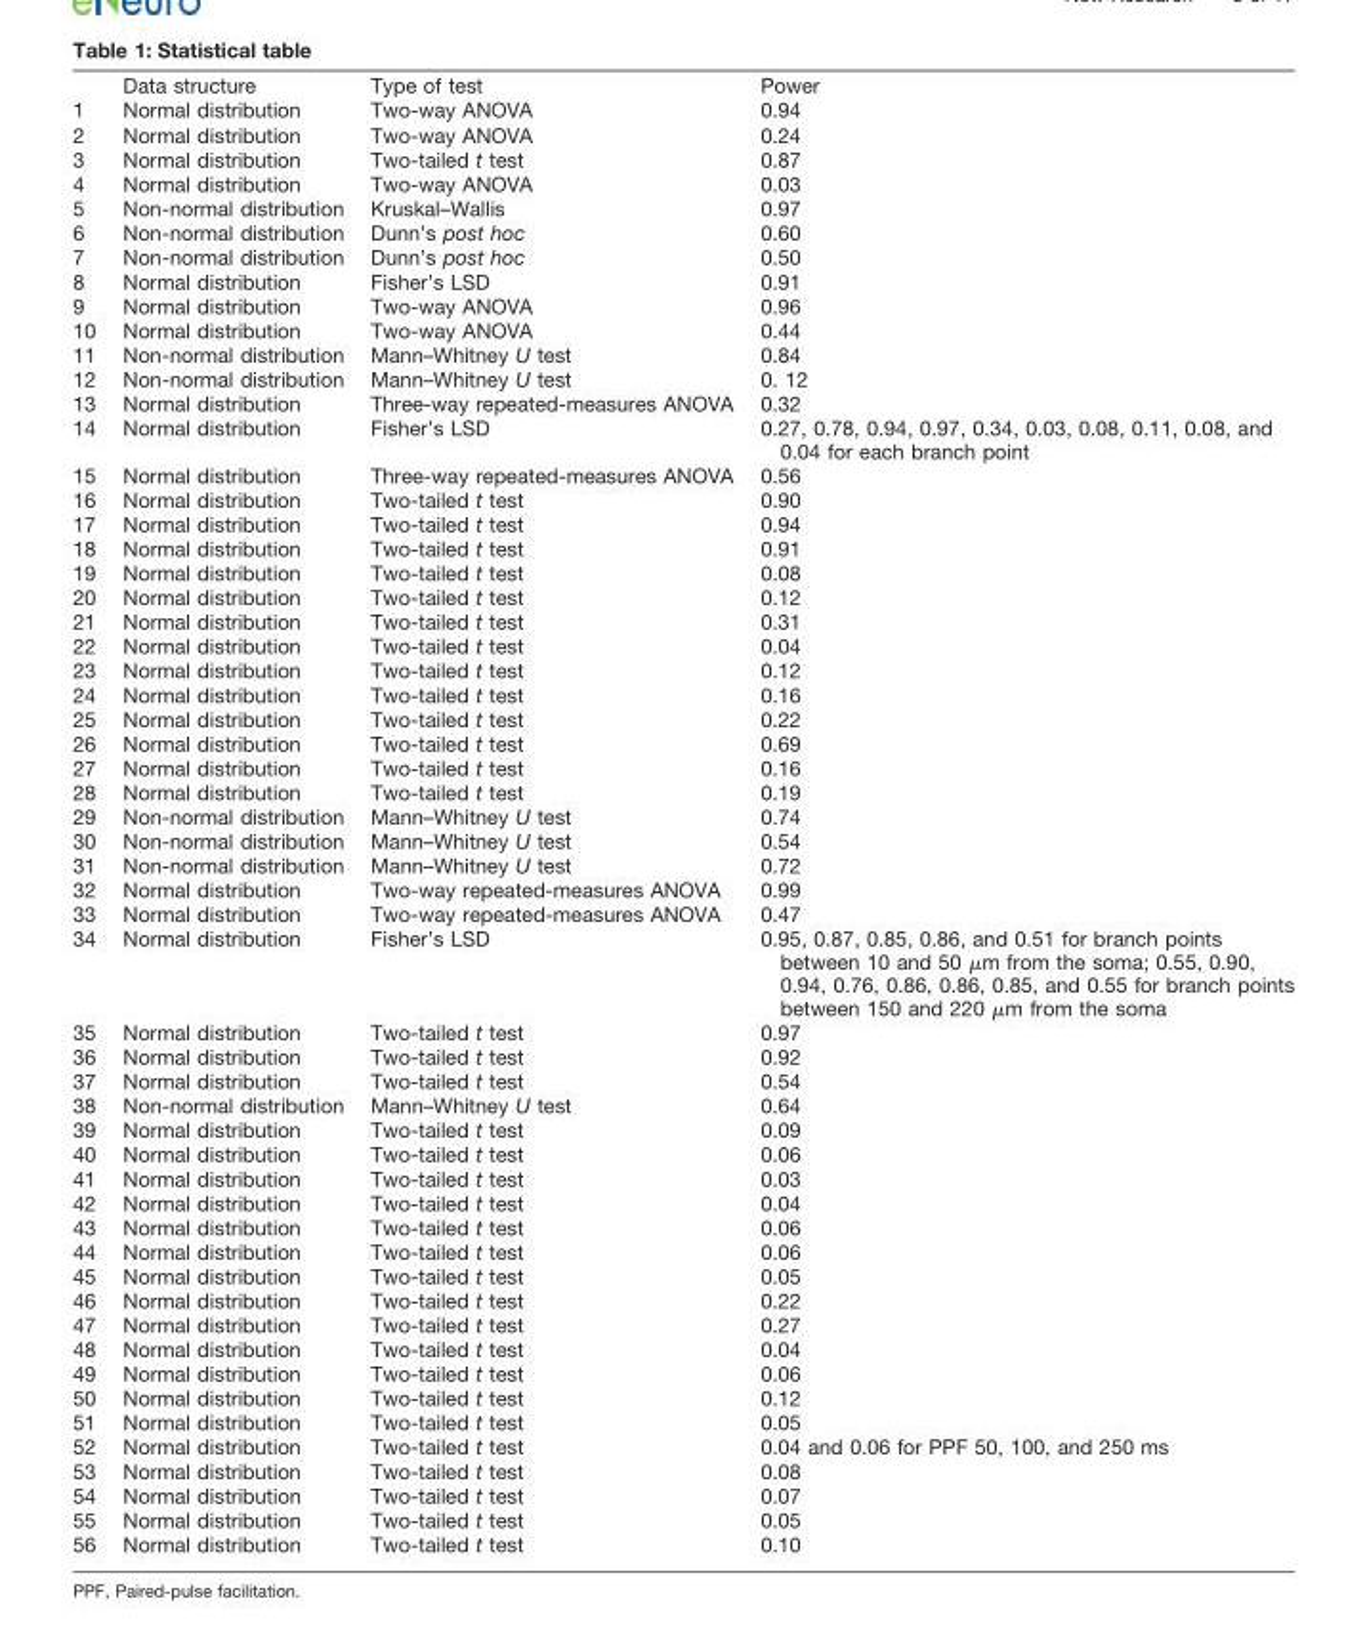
<table><thead><tr><td></td><td>Data structure</td><td>Type of test</td><td>Power</td></tr></thead><tbody><tr><td>1</td><td>Normal distribution</td><td>Two-way ANOVA</td><td>0.94</td></tr><tr><td>2</td><td>Normal distribution</td><td>Two-way ANOVA</td><td>0.24</td></tr><tr><td>3</td><td>Normal distribution</td><td>Two-tailed t test</td><td>0.87</td></tr><tr><td>4</td><td>Normal distribution</td><td>Two-way ANOVA</td><td>0.03</td></tr><tr><td>5</td><td>Non-normal distribution</td><td>Kruskal–Wallis</td><td>0.97</td></tr><tr><td>6</td><td>Non-normal distribution</td><td>Dunn’s post hoc</td><td>0.60</td></tr><tr><td>7</td><td>Non-normal distribution</td><td>Dunn’s post hoc</td><td>0.50</td></tr><tr><td>8</td><td>Normal distribution</td><td>Fisher’s LSD</td><td>0.91</td></tr><tr><td>9</td><td>Normal distribution</td><td>Two-way ANOVA</td><td>0.96</td></tr><tr><td>10</td><td>Normal distribution</td><td>Two-way ANOVA</td><td>0.44</td></tr><tr><td>11</td><td>Non-normal distribution</td><td>Mann–Whitney U test</td><td>0.84</td></tr><tr><td>12</td><td>Non-normal distribution</td><td>Mann–Whitney U test</td><td>0. 12</td></tr><tr><td>13</td><td>Normal distribution</td><td>Three-way repeated-measures ANOVA</td><td>0.32</td></tr><tr><td>14</td><td>Normal distribution</td><td>Fisher’s LSD</td><td>0.27, 0.78, 0.94, 0.97, 0.34, 0.03, 0.08, 0.11, 0.08, and 0.04 for each branch point</td></tr><tr><td>15</td><td>Normal distribution</td><td>Three-way repeated-measures ANOVA</td><td>0.56</td></tr><tr><td>16</td><td>Normal distribution</td><td>Two-tailed t test</td><td>0.90</td></tr><tr><td>17</td><td>Normal distribution</td><td>Two-tailed t test</td><td>0.94</td></tr><tr><td>18</td><td>Normal distribution</td><td>Two-tailed t test</td><td>0.91</td></tr><tr><td>19</td><td>Normal distribution</td><td>Two-tailed t test</td><td>0.08</td></tr><tr><td>20</td><td>Normal distribution</td><td>Two-tailed t test</td><td>0.12</td></tr><tr><td>21</td><td>Normal distribution</td><td>Two-tailed t test</td><td>0.31</td></tr><tr><td>22</td><td>Normal distribution</td><td>Two-tailed t test</td><td>0.04</td></tr><tr><td>23</td><td>Normal distribution</td><td>Two-tailed t test</td><td>0.12</td></tr><tr><td>24</td><td>Normal distribution</td><td>Two-tailed t test</td><td>0.16</td></tr><tr><td>25</td><td>Normal distribution</td><td>Two-tailed t test</td><td>0.22</td></tr><tr><td>26</td><td>Normal distribution</td><td>Two-tailed t test</td><td>0.69</td></tr><tr><td>27</td><td>Normal distribution</td><td>Two-tailed t test</td><td>0.16</td></tr><tr><td>28</td><td>Normal distribution</td><td>Two-tailed t test</td><td>0.19</td></tr><tr><td>29</td><td>Non-normal distribution</td><td>Mann–Whitney U test</td><td>0.74</td></tr><tr><td>30</td><td>Non-normal distribution</td><td>Mann–Whitney U test</td><td>0.54</td></tr><tr><td>31</td><td>Non-normal distribution</td><td>Mann–Whitney U test</td><td>0.72</td></tr><tr><td>32</td><td>Normal distribution</td><td>Two-way repeated-measures ANOVA</td><td>0.99</td></tr><tr><td>33</td><td>Normal distribution</td><td>Two-way repeated-measures ANOVA</td><td>0.47</td></tr><tr><td>34</td><td>Normal distribution</td><td>Fisher’s LSD</td><td>0.95, 0.87, 0.85, 0.86, and 0.51 for branch points between 10 and 50 μm from the soma; 0.55, 0.90, 0.94, 0.76, 0.86, 0.86, 0.85, and 0.55 for branch points between 150 and 220 μm from the soma</td></tr><tr><td>35</td><td>Normal distribution</td><td>Two-tailed t test</td><td>0.97</td></tr><tr><td>36</td><td>Normal distribution</td><td>Two-tailed t test</td><td>0.92</td></tr><tr><td>37</td><td>Normal distribution</td><td>Two-tailed t test</td><td>0.54</td></tr><tr><td>38</td><td>Non-normal distribution</td><td>Mann–Whitney U test</td><td>0.64</td></tr><tr><td>39</td><td>Normal distribution</td><td>Two-tailed t test</td><td>0.09</td></tr><tr><td>40</td><td>Normal distribution</td><td>Two-tailed t test</td><td>0.06</td></tr><tr><td>41</td><td>Normal distribution</td><td>Two-tailed t test</td><td>0.03</td></tr><tr><td>42</td><td>Normal distribution</td><td>Two-tailed t test</td><td>0.04</td></tr><tr><td>43</td><td>Normal distribution</td><td>Two-tailed t test</td><td>0.06</td></tr><tr><td>44</td><td>Normal distribution</td><td>Two-tailed t test</td><td>0.06</td></tr><tr><td>45</td><td>Normal distribution</td><td>Two-tailed t test</td><td>0.05</td></tr><tr><td>46</td><td>Normal distribution</td><td>Two-tailed t test</td><td>0.22</td></tr><tr><td>47</td><td>Normal distribution</td><td>Two-tailed t test</td><td>0.27</td></tr><tr><td>48</td><td>Normal distribution</td><td>Two-tailed t test</td><td>0.04</td></tr><tr><td>49</td><td>Normal distribution</td><td>Two-tailed t test</td><td>0.06</td></tr><tr><td>50</td><td>Normal distribution</td><td>Two-tailed t test</td><td>0.12</td></tr><tr><td>51</td><td>Normal distribution</td><td>Two-tailed t test</td><td>0.05</td></tr><tr><td>52</td><td>Normal distribution</td><td>Two-tailed t test</td><td>0.04 and 0.06 for PPF 50, 100, and 250 ms</td></tr><tr><td>53</td><td>Normal distribution</td><td>Two-tailed t test</td><td>0.08</td></tr><tr><td>54</td><td>Normal distribution</td><td>Two-tailed t test</td><td>0.07</td></tr><tr><td>55</td><td>Normal distribution</td><td>Two-tailed t test</td><td>0.05</td></tr><tr><td>56</td><td>Normal distribution</td><td>Two-tailed t test</td><td>0.10</td></tr></tbody></table>